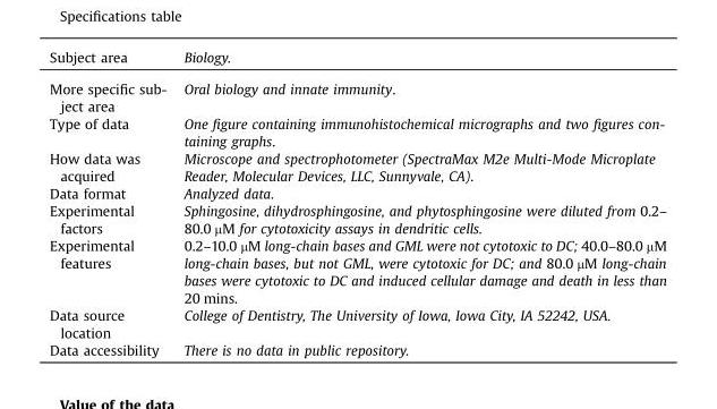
<table><tbody><tr><td>Subject area</td><td>Biology.</td></tr><tr><td>More specific sub- ject area</td><td>Oral biology and innate immunity.</td></tr><tr><td>Type of data</td><td>One figure containing immunohistochemical micrographs and two figures con- taining graphs.</td></tr><tr><td>How data was acquired</td><td>Microscope and spectrophotometer (SpectraMax M2e Multi-Mode Microplate Reader, Molecular Devices, LLC, Sunnyvale, CA).</td></tr><tr><td>Data format</td><td>Analyzed data.</td></tr><tr><td>Experimental factors</td><td>Sphingosine, dihydrosphingosine, and phytosphingosine were diluted from 0.2– 80.0 µM for cytotoxicity assays in dendritic cells.</td></tr><tr><td>Experimental features</td><td>0.2–10.0 µM long-chain bases and GML were not cytotoxic to DC; 40.0–80.0 µM long-chain bases, but not GML, were cytotoxic for DC; and 80.0 µM long-chain bases were cytotoxic to DC and induced cellular damage and death in less than 20 mins.</td></tr><tr><td>Data source location</td><td>College of Dentistry, The University of Iowa, Iowa City, IA 52242, USA.</td></tr><tr><td>Data accessibility</td><td>There is no data in public repository.</td></tr></tbody></table>